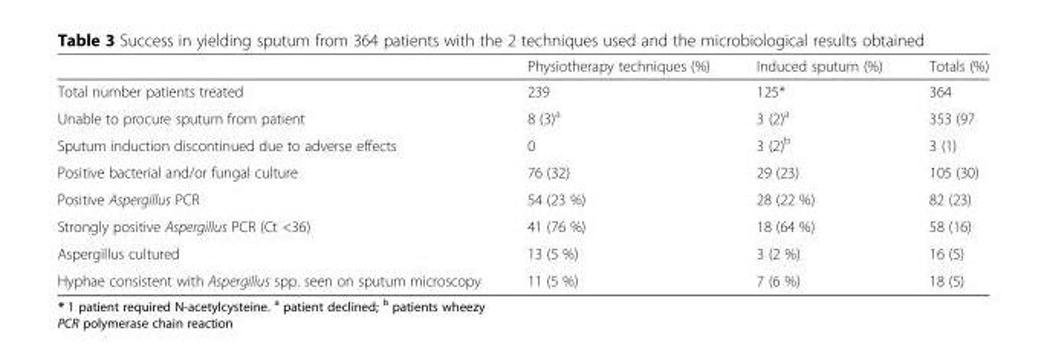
<table><thead><tr><td></td><td>Physiotherapy techniques (%)</td><td>Induced sputum (%)</td><td>Totals (%)</td></tr></thead><tbody><tr><td>Total number patients treated</td><td>239</td><td>125*</td><td>364</td></tr><tr><td>Unable to procure sputum from patient</td><td>8 (3)<sup>a</sup></td><td>3 (2)<sup>a</sup></td><td>353 (97</td></tr><tr><td>Sputum induction discontinued due to adverse effects</td><td>0</td><td>3 (2)<sup>b</sup></td><td>3 (1)</td></tr><tr><td>Positive bacterial and/or fungal culture</td><td>76 (32)</td><td>29 (23)</td><td>105 (30)</td></tr><tr><td>Positive Aspergillus PCR</td><td>54 (23 %)</td><td>28 (22 %)</td><td>82 (23)</td></tr><tr><td>Strongly positive Aspergillus PCR (Ct &lt;36)</td><td>41 (76 %)</td><td>18 (64 %)</td><td>58 (16)</td></tr><tr><td>Aspergillus cultured</td><td>13 (5 %)</td><td>3 (2 %)</td><td>16 (5)</td></tr><tr><td>Hyphae consistent with Aspergillus spp. seen on sputum microscopy</td><td>11 (5 %)</td><td>7 (6 %)</td><td>18 (5)</td></tr></tbody></table>